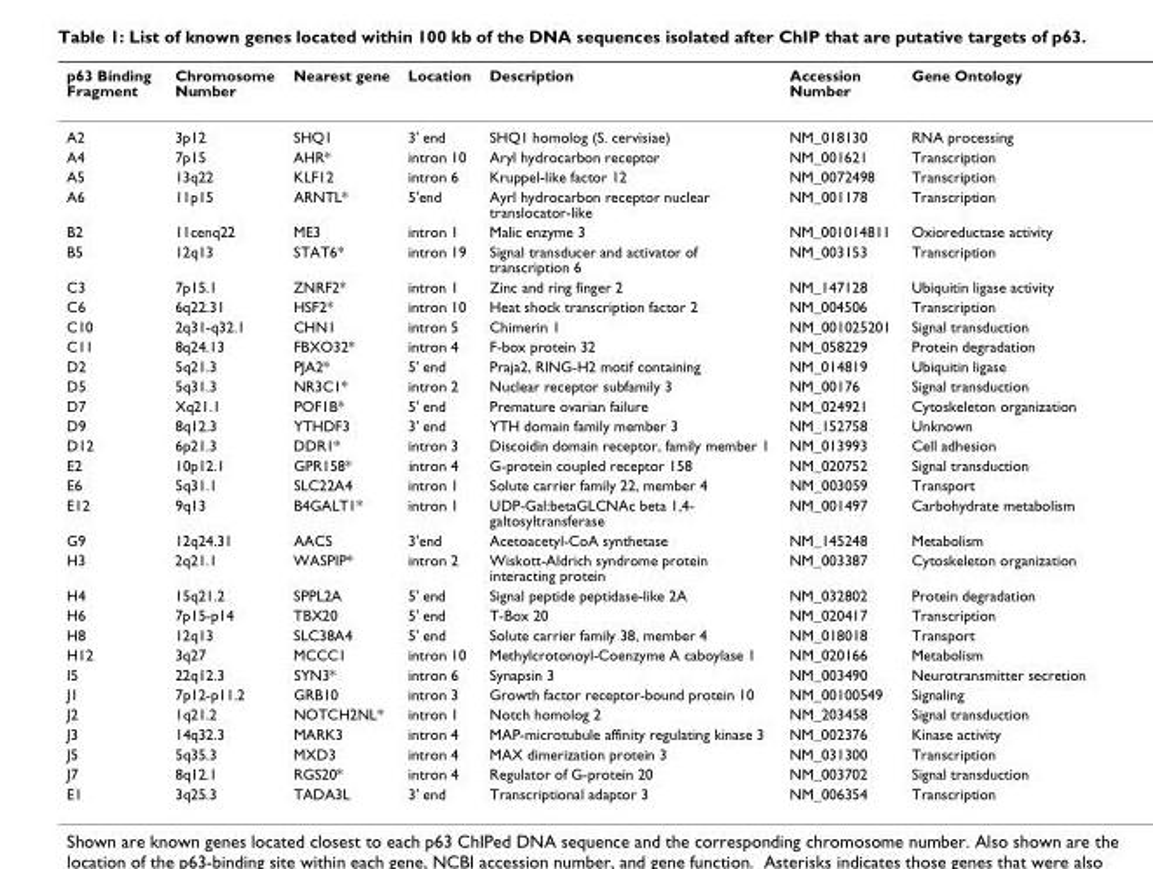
<table><thead><tr><td>p63 Binding Fragment</td><td>Chromosome Number</td><td>Nearest gene</td><td>Location</td><td>Description</td><td>Accession Number</td><td>Gene Ontology</td></tr></thead><tbody><tr><td>A2</td><td>3p12</td><td>SHQ1</td><td>3&#x27; end</td><td>SHQ1 homolog (S. cervisiae)</td><td>NM_018130</td><td>RNA processing</td></tr><tr><td>A4</td><td>7p15</td><td>AHR*</td><td>intron 10</td><td>Aryl hydrocarbon receptor</td><td>NM_001621</td><td>Transcription</td></tr><tr><td>A5</td><td>13q22</td><td>KLF12</td><td>intron 6</td><td>Kruppel-like factor 12</td><td>NM_0072498</td><td>Transcription</td></tr><tr><td>A6</td><td>11p15</td><td>ARNTL*</td><td>5&#x27;end</td><td>Ayrl hydrocarbon receptor nuclear translocator-like</td><td>NM_001178</td><td>Transcription</td></tr><tr><td>B2</td><td>11cenq22</td><td>ME3</td><td>intron 1</td><td>Malic enzyme 3</td><td>NM_001014811</td><td>Oxioreductase activity</td></tr><tr><td>B5</td><td>12q13</td><td>STAT6*</td><td>intron 19</td><td>Signal transducer and activator of transcription 6</td><td>NM_003153</td><td>Transcription</td></tr><tr><td>C3</td><td>7p15.1</td><td>ZNRF2*</td><td>intron 1</td><td>Zinc and ring finger 2</td><td>NM_147128</td><td>Ubiquitin ligase activity</td></tr><tr><td>C6</td><td>6q22.31</td><td>HSF2*</td><td>intron 10</td><td>Heat shock transcription factor 2</td><td>NM_004506</td><td>Transcription</td></tr><tr><td>C10</td><td>2q31-q32.1</td><td>CHN1</td><td>intron 5</td><td>Chimerin 1</td><td>NM_001025201</td><td>Signal transduction</td></tr><tr><td>C11</td><td>8q24.13</td><td>FBXO32*</td><td>intron 4</td><td>F-box protein 32</td><td>NM_058229</td><td>Protein degradation</td></tr><tr><td>D2</td><td>5q21.3</td><td>PJA2*</td><td>5&#x27; end</td><td>Praja2, RING-H2 motif containing</td><td>NM_014819</td><td>Ubiquitin ligase</td></tr><tr><td>D5</td><td>5q31.3</td><td>NR3C1*</td><td>intron 2</td><td>Nuclear receptor subfamily 3</td><td>NM_00176</td><td>Signal transduction</td></tr><tr><td>D7</td><td>Xq21.1</td><td>POF1B*</td><td>5&#x27; end</td><td>Premature ovarian failure</td><td>NM_024921</td><td>Cytoskeleton organization</td></tr><tr><td>D9</td><td>8q12.3</td><td>YTHDF3</td><td>3&#x27; end</td><td>YTH domain family member 3</td><td>NM_152758</td><td>Unknown</td></tr><tr><td>D12</td><td>6p21.3</td><td>DDR1*</td><td>intron 3</td><td>Discoidin domain receptor, family member 1</td><td>NM_013993</td><td>Cell adhesion</td></tr><tr><td>E2</td><td>10p12.1</td><td>GPR158*</td><td>intron 4</td><td>G-protein coupled receptor 158</td><td>NM_020752</td><td>Signal transduction</td></tr><tr><td>E6</td><td>5q31.1</td><td>SLC22A4</td><td>intron 1</td><td>Solute carrier family 22, member 4</td><td>NM_003059</td><td>Transport</td></tr><tr><td>E12</td><td>9q13</td><td>B4GALT1*</td><td>intron 1</td><td>UDP-Gal:betaGLCNAc beta 1,4- galtosyltransferase</td><td>NM_001497</td><td>Carbohydrate metabolism</td></tr><tr><td>G9</td><td>12q24.31</td><td>AACS</td><td>3&#x27;end</td><td>Acetoacetyl-CoA synthetase</td><td>NM_145248</td><td>Metabolism</td></tr><tr><td>H3</td><td>2q21.1</td><td>WASPIP*</td><td>intron 2</td><td>Wiskott-Aldrich syndrome protein interacting protein</td><td>NM_003387</td><td>Cytoskeleton organization</td></tr><tr><td>H4</td><td>15q21.2</td><td>SPPL2A</td><td>5&#x27; end</td><td>Signal peptide peptidase-like 2A</td><td>NM_032802</td><td>Protein degradation</td></tr><tr><td>H6</td><td>7p15-p14</td><td>TBX20</td><td>5&#x27; end</td><td>T-Box 20</td><td>NM_020417</td><td>Transcription</td></tr><tr><td>H8</td><td>12q13</td><td>SLC38A4</td><td>5&#x27; end</td><td>Solute carrier family 38, member 4</td><td>NM_018018</td><td>Transport</td></tr><tr><td>H12</td><td>3q27</td><td>MCCC1</td><td>intron 10</td><td>Methylcrotonoyl-Coenzyme A caboylase 1</td><td>NM_020166</td><td>Metabolism</td></tr><tr><td>I5</td><td>22q12.3</td><td>SYN3*</td><td>intron 6</td><td>Synapsin 3</td><td>NM_003490</td><td>Neurotransmitter secretion</td></tr><tr><td>J1</td><td>7p12-p11.2</td><td>GRB10</td><td>intron 3</td><td>Growth factor receptor-bound protein 10</td><td>NM_00100549</td><td>Signaling</td></tr><tr><td>J2</td><td>1q21.2</td><td>NOTCH2NL*</td><td>intron 1</td><td>Notch homolog 2</td><td>NM_203458</td><td>Signal transduction</td></tr><tr><td>J3</td><td>14q32.3</td><td>MARK3</td><td>intron 4</td><td>MAP-microtubule affinity regulating kinase 3</td><td>NM_002376</td><td>Kinase activity</td></tr><tr><td>J5</td><td>5q35.3</td><td>MXD3</td><td>intron 4</td><td>MAX dimerization protein 3</td><td>NM_031300</td><td>Transcription</td></tr><tr><td>J7</td><td>8q12.1</td><td>RGS20*</td><td>intron 4</td><td>Regulator of G-protein 20</td><td>NM_003702</td><td>Signal transduction</td></tr><tr><td>E1</td><td>3q25.3</td><td>TADA3L</td><td>3&#x27; end</td><td>Transcriptional adaptor 3</td><td>NM_006354</td><td>Transcription</td></tr></tbody></table>